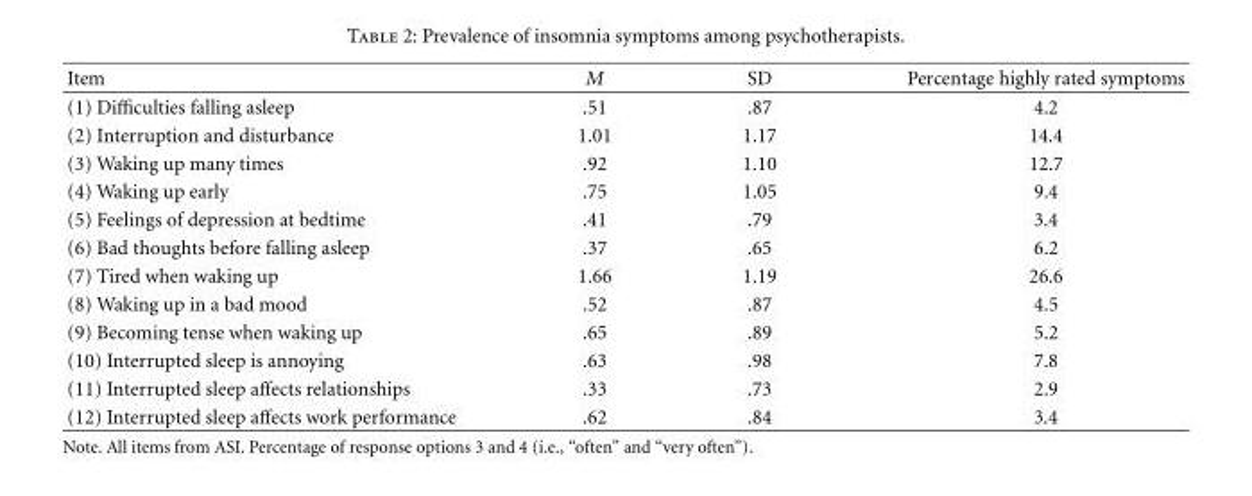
<table><thead><tr><td>Item</td><td>M</td><td>SD</td><td>Percentage highly rated symptoms</td></tr></thead><tbody><tr><td>(1) Difficulties falling asleep</td><td>.51</td><td>.87</td><td>4.2</td></tr><tr><td>(2) Interruption and disturbance</td><td>1.01</td><td>1.17</td><td>14.4</td></tr><tr><td>(3) Waking up many times</td><td>.92</td><td>1.10</td><td>12.7</td></tr><tr><td>(4) Waking up early</td><td>.75</td><td>1.05</td><td>9.4</td></tr><tr><td>(5) Feelings of depression at bedtime</td><td>.41</td><td>.79</td><td>3.4</td></tr><tr><td>(6) Bad thoughts before falling asleep</td><td>.37</td><td>.65</td><td>6.2</td></tr><tr><td>(7) Tired when waking up</td><td>1.66</td><td>1.19</td><td>26.6</td></tr><tr><td>(8) Waking up in a bad mood</td><td>.52</td><td>.87</td><td>4.5</td></tr><tr><td>(9) Becoming tense when waking up</td><td>.65</td><td>.89</td><td>5.2</td></tr><tr><td>(10) Interrupted sleep is annoying</td><td>.63</td><td>.98</td><td>7.8</td></tr><tr><td>(11) Interrupted sleep affects relationships</td><td>.33</td><td>.73</td><td>2.9</td></tr><tr><td>(12) Interrupted sleep affects work performance</td><td>.62</td><td>.84</td><td>3.4</td></tr></tbody></table>